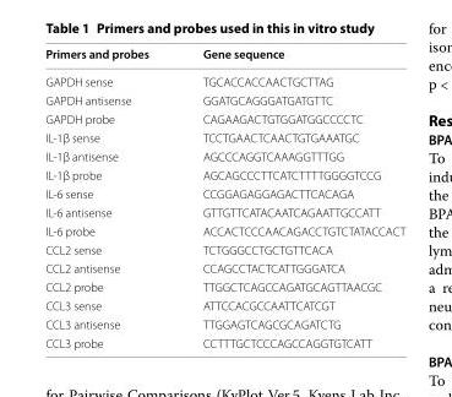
<table><thead><tr><td>Primers and probes</td><td>Gene sequence</td></tr></thead><tbody><tr><td>GAPDH sense</td><td>TGCACCACCAACTGCTTAG</td></tr><tr><td>GAPDH antisense</td><td>GGATGCAGGGATGATGTTC</td></tr><tr><td>GAPDH probe</td><td>CAGAAGACTGTGGATGGCCCCTC</td></tr><tr><td>IL-1β sense</td><td>TCCTGAACTCAACTGTGAAATGC</td></tr><tr><td>IL-1β antisense</td><td>AGCCCAGGTCAAAGGTTTGG</td></tr><tr><td>IL-1β probe</td><td>AGCAGCCCTTCATCTTTTGGGGTCCG</td></tr><tr><td>IL-6 sense</td><td>CCGGAGAGGAGACTTCACAGA</td></tr><tr><td>IL-6 antisense</td><td>GTTGTTCATACAATCAGAATTGCCATT</td></tr><tr><td>IL-6 probe</td><td>ACCACTCCCAACAGACCTGTCTATACCACT</td></tr><tr><td>CCL2 sense</td><td>TCTGGGCCTGCTGTTCACA</td></tr><tr><td>CCL2 antisense</td><td>CCAGCCTACTCATTGGGATCA</td></tr><tr><td>CCL2 probe</td><td>TTGGCTCAGCCAGATGCAGTTAACGC</td></tr><tr><td>CCL3 sense</td><td>ATTCCACGCCAATTCATCGT</td></tr><tr><td>CCL3 antisense</td><td>TTGGAGTCAGCGCAGATCTG</td></tr><tr><td>CCL3 probe</td><td>CCTTTGCTCCCAGCCAGGTGTCATT</td></tr></tbody></table>